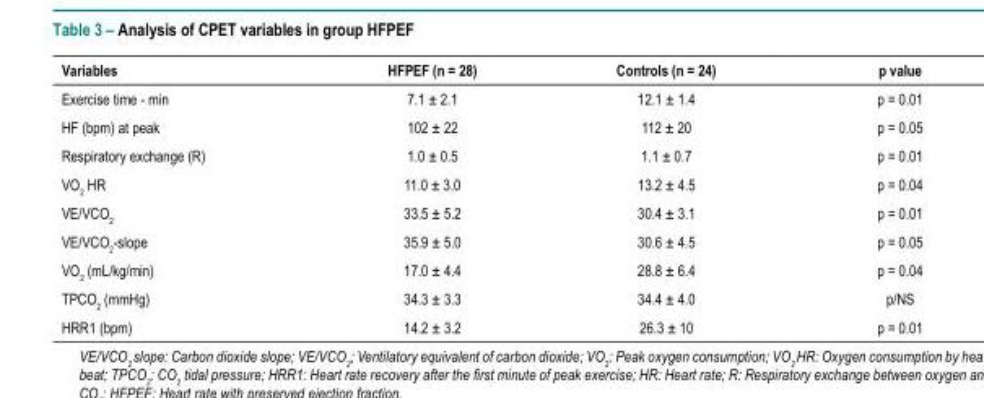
<table><thead><tr><td>Variables</td><td>HFPEF (n = 28)</td><td>Controls (n = 24)</td><td>p value</td></tr></thead><tbody><tr><td>Exercise time - min</td><td>7.1 ± 2.1</td><td>12.1 ± 1.4</td><td>p = 0.01</td></tr><tr><td>HF (bpm) at peak</td><td>102 ± 22</td><td>112 ± 20</td><td>p = 0.05</td></tr><tr><td>Respiratory exchange (R)</td><td>1.0 ± 0.5</td><td>1.1 ± 0.7</td><td>p = 0.01</td></tr><tr><td>VO<sub>2</sub> HR</td><td>11.0 ± 3.0</td><td>13.2 ± 4.5</td><td>p = 0.04</td></tr><tr><td>VE/VCO<sub>2</sub></td><td>33.5 ± 5.2</td><td>30.4 ± 3.1</td><td>p = 0.01</td></tr><tr><td>VE/VCO<sub>2</sub>-slope</td><td>35.9 ± 5.0</td><td>30.6 ± 4.5</td><td>p = 0.05</td></tr><tr><td>VO<sub>2</sub> (mL/kg/min)</td><td>17.0 ± 4.4</td><td>28.8 ± 6.4</td><td>p = 0.04</td></tr><tr><td>TPCO<sub>2</sub> (mmHg)</td><td>34.3 ± 3.3</td><td>34.4 ± 4.0</td><td>p/NS</td></tr><tr><td>HRR1 (bpm)</td><td>14.2 ± 3.2</td><td>26.3 ± 10</td><td>p = 0.01</td></tr></tbody></table>